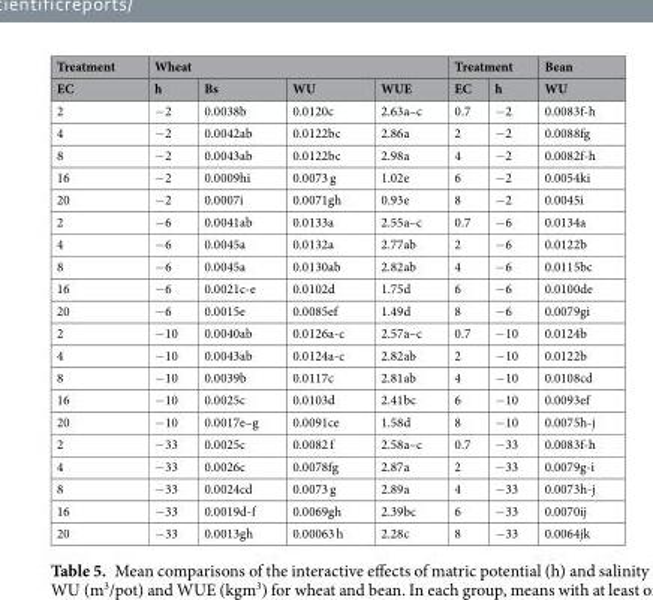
<table><thead><tr><td rowspan="2">Treatment EC</td><td colspan="4">Wheat</td><td colspan="2">Treatment</td><td rowspan="2">Bean WU</td></tr><tr><td>h</td><td>Bs</td><td>WU</td><td>WUE</td><td>EC</td><td>h</td></tr></thead><tbody><tr><td>2</td><td>−2</td><td>0.0038b</td><td>0.0120c</td><td>2.63a–c</td><td>0.7</td><td>−2</td><td>0.0083f-h</td></tr><tr><td>4</td><td>−2</td><td>0.0042ab</td><td>0.0122bc</td><td>2.86a</td><td>2</td><td>−2</td><td>0.0088fg</td></tr><tr><td>8</td><td>−2</td><td>0.0043ab</td><td>0.0122bc</td><td>2.98a</td><td>4</td><td>−2</td><td>0.0082f-h</td></tr><tr><td>16</td><td>−2</td><td>0.0009hi</td><td>0.0073 g</td><td>1.02e</td><td>6</td><td>−2</td><td>0.0054ki</td></tr><tr><td>20</td><td>−2</td><td>0.0007i</td><td>0.0071gh</td><td>0.93e</td><td>8</td><td>−2</td><td>0.0045i</td></tr><tr><td>2</td><td>−6</td><td>0.0041ab</td><td>0.0133a</td><td>2.55a–c</td><td>0.7</td><td>−6</td><td>0.0134a</td></tr><tr><td>4</td><td>−6</td><td>0.0045a</td><td>0.0132a</td><td>2.77ab</td><td>2</td><td>−6</td><td>0.0122b</td></tr><tr><td>8</td><td>−6</td><td>0.0045a</td><td>0.0130ab</td><td>2.82ab</td><td>4</td><td>−6</td><td>0.0115bc</td></tr><tr><td>16</td><td>−6</td><td>0.0021c-e</td><td>0.0102d</td><td>1.75d</td><td>6</td><td>−6</td><td>0.0100de</td></tr><tr><td>20</td><td>−6</td><td>0.0015e</td><td>0.0085ef</td><td>1.49d</td><td>8</td><td>−6</td><td>0.0079gi</td></tr><tr><td>2</td><td>−10</td><td>0.0040ab</td><td>0.0126a-c</td><td>2.57a–c</td><td>0.7</td><td>−10</td><td>0.0124b</td></tr><tr><td>4</td><td>−10</td><td>0.0043ab</td><td>0.0124a-c</td><td>2.82ab</td><td>2</td><td>−10</td><td>0.0122b</td></tr><tr><td>8</td><td>−10</td><td>0.0039b</td><td>0.0117c</td><td>2.81ab</td><td>4</td><td>−10</td><td>0.0108cd</td></tr><tr><td>16</td><td>−10</td><td>0.0025c</td><td>0.0103d</td><td>2.41bc</td><td>6</td><td>−10</td><td>0.0093ef</td></tr><tr><td>20</td><td>−10</td><td>0.0017e–g</td><td>0.0091ce</td><td>1.58d</td><td>8</td><td>−10</td><td>0.0075h-j</td></tr><tr><td>2</td><td>−33</td><td>0.0025c</td><td>0.0082 f</td><td>2.58a–c</td><td>0.7</td><td>−33</td><td>0.0083f-h</td></tr><tr><td>4</td><td>−33</td><td>0.0026c</td><td>0.0078fg</td><td>2.87a</td><td>2</td><td>−33</td><td>0.0079g-i</td></tr><tr><td>8</td><td>−33</td><td>0.0024cd</td><td>0.0073 g</td><td>2.89a</td><td>4</td><td>−33</td><td>0.0073h-j</td></tr><tr><td>16</td><td>−33</td><td>0.0019d-f</td><td>0.0069gh</td><td>2.39bc</td><td>6</td><td>−33</td><td>0.0070ij</td></tr><tr><td>20</td><td>−33</td><td>0.0013gh</td><td>0.00063 h</td><td>2.28c</td><td>8</td><td>−33</td><td>0.0064jk</td></tr></tbody></table>